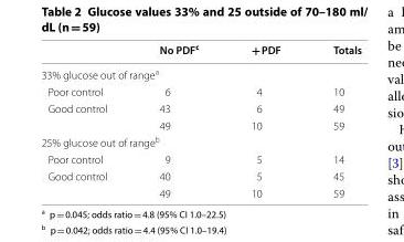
<table><thead><tr><td></td><td>No PDF<sup>c</sup></td><td>+ PDF</td><td>Totals</td></tr></thead><tbody><tr><td colspan="4">33% glucose out of range<sup>a</sup></td></tr><tr><td>Poor control</td><td>6</td><td>4</td><td>10</td></tr><tr><td rowspan="2">Good control</td><td>43</td><td>6</td><td>49</td></tr><tr><td>49</td><td>10</td><td>59</td></tr><tr><td colspan="4">25% glucose out of range<sup>b</sup></td></tr><tr><td>Poor control</td><td>9</td><td>5</td><td>14</td></tr><tr><td rowspan="2">Good control</td><td>40</td><td>5</td><td>45</td></tr><tr><td>49</td><td>10</td><td>59</td></tr></tbody></table>